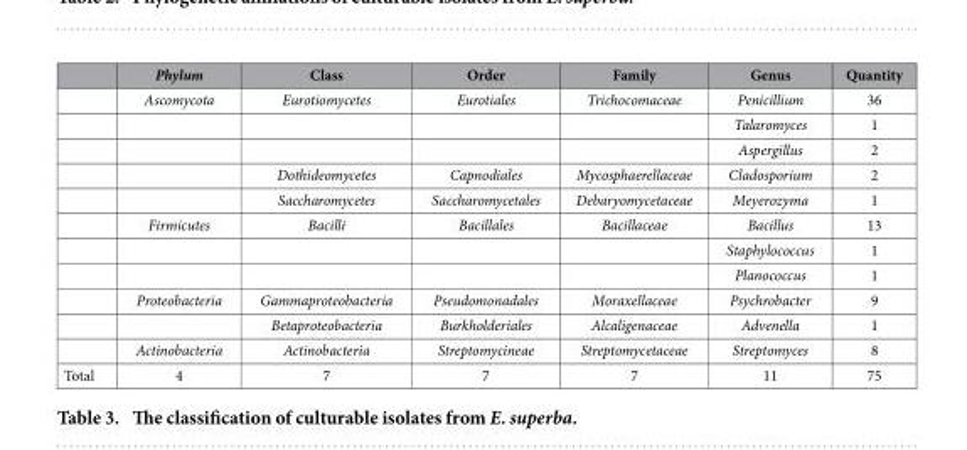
<table><thead><tr><td></td><td>Phylum</td><td>Class</td><td>Order</td><td>Family</td><td>Genus</td><td>Quantity</td></tr></thead><tbody><tr><td></td><td>Ascomycota</td><td>Eurotiomycetes</td><td>Eurotiales</td><td>Trichocomaceae</td><td>Penicillium</td><td>36</td></tr><tr><td></td><td></td><td></td><td></td><td></td><td>Talaromyces</td><td>1</td></tr><tr><td></td><td></td><td></td><td></td><td></td><td>Aspergillus</td><td>2</td></tr><tr><td></td><td></td><td>Dothideomycetes</td><td>Capnodiales</td><td>Mycosphaerellaceae</td><td>Cladosporium</td><td>2</td></tr><tr><td></td><td></td><td>Saccharomycetes</td><td>Saccharomycetales</td><td>Debaryomycetaceae</td><td>Meyerozyma</td><td>1</td></tr><tr><td></td><td>Firmicutes</td><td>Bacilli</td><td>Bacillales</td><td>Bacillaceae</td><td>Bacillus</td><td>13</td></tr><tr><td></td><td></td><td></td><td></td><td></td><td>Staphylococcus</td><td>1</td></tr><tr><td></td><td></td><td></td><td></td><td></td><td>Planococcus</td><td>1</td></tr><tr><td></td><td>Proteobacteria</td><td>Gammaproteobacteria</td><td>Pseudomonadales</td><td>Moraxellaceae</td><td>Psychrobacter</td><td>9</td></tr><tr><td></td><td></td><td>Betaproteobacteria</td><td>Burkholderiales</td><td>Alcaligenaceae</td><td>Advenella</td><td>1</td></tr><tr><td></td><td>Actinobacteria</td><td>Actinobacteria</td><td>Streptomycineae</td><td>Streptomycetaceae</td><td>Streptomyces</td><td>8</td></tr><tr><td>Total</td><td>4</td><td>7</td><td>7</td><td>7</td><td>11</td><td>75</td></tr></tbody></table>